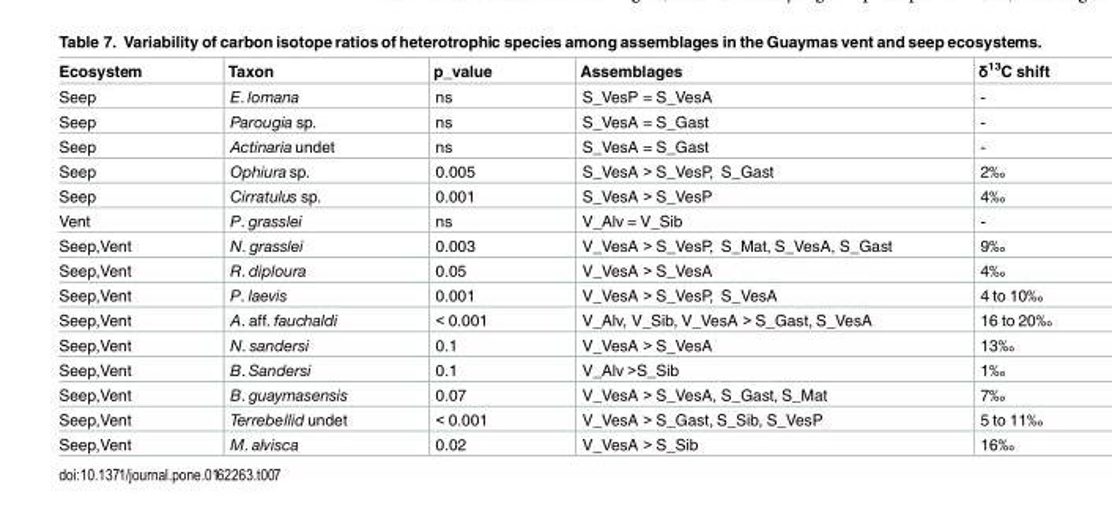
<table><thead><tr><td>Ecosystem</td><td>Taxon</td><td>p_value</td><td>Assemblages</td><td>δ<sup>13</sup>C shift</td></tr></thead><tbody><tr><td>Seep</td><td>E. lomana</td><td>ns</td><td>S_VesP = S_VesA</td><td>-</td></tr><tr><td>Seep</td><td>Parougia sp.</td><td>ns</td><td>S_VesA = S_Gast</td><td>-</td></tr><tr><td>Seep</td><td>Actinaria undet</td><td>ns</td><td>S_VesA = S_Gast</td><td>-</td></tr><tr><td>Seep</td><td>Ophiura sp.</td><td>0.005</td><td>S_VesA &gt; S_VesP, S_Gast</td><td>2‰</td></tr><tr><td>Seep</td><td>Cirratulus sp.</td><td>0.001</td><td>S_VesA &gt; S_VesP</td><td>4‰</td></tr><tr><td>Vent</td><td>P. grasslei</td><td>ns</td><td>V_Alv = V_Sib</td><td>-</td></tr><tr><td>Seep,Vent</td><td>N. grasslei</td><td>0.003</td><td>V_VesA &gt; S_VesP, S_Mat, S_VesA, S_Gast</td><td>9‰</td></tr><tr><td>Seep,Vent</td><td>R. diploura</td><td>0.05</td><td>V_VesA &gt; S_VesA</td><td>4‰</td></tr><tr><td>Seep,Vent</td><td>P. laevis</td><td>0.001</td><td>V_VesA &gt; S_VesP, S_VesA</td><td>4 to 10‰</td></tr><tr><td>Seep,Vent</td><td>A. aff. fauchaldi</td><td>&lt; 0.001</td><td>V_Alv, V_Sib, V_VesA &gt; S_Gast, S_VesA</td><td>16 to 20‰</td></tr><tr><td>Seep,Vent</td><td>N. sandersi</td><td>0.1</td><td>V_VesA &gt; S_VesA</td><td>13‰</td></tr><tr><td>Seep,Vent</td><td>B. Sandersi</td><td>0.1</td><td>V_Alv &gt;S_Sib</td><td>1‰</td></tr><tr><td>Seep,Vent</td><td>B. guaymasensis</td><td>0.07</td><td>V_VesA &gt; S_VesA, S_Gast, S_Mat</td><td>7‰</td></tr><tr><td>Seep,Vent</td><td>Terrebellid undet</td><td>&lt; 0.001</td><td>V_VesA &gt; S_Gast, S_Sib, S_VesP</td><td>5 to 11‰</td></tr><tr><td>Seep,Vent</td><td>M. alvisca</td><td>0.02</td><td>V_VesA &gt; S_Sib</td><td>16‰</td></tr></tbody></table>